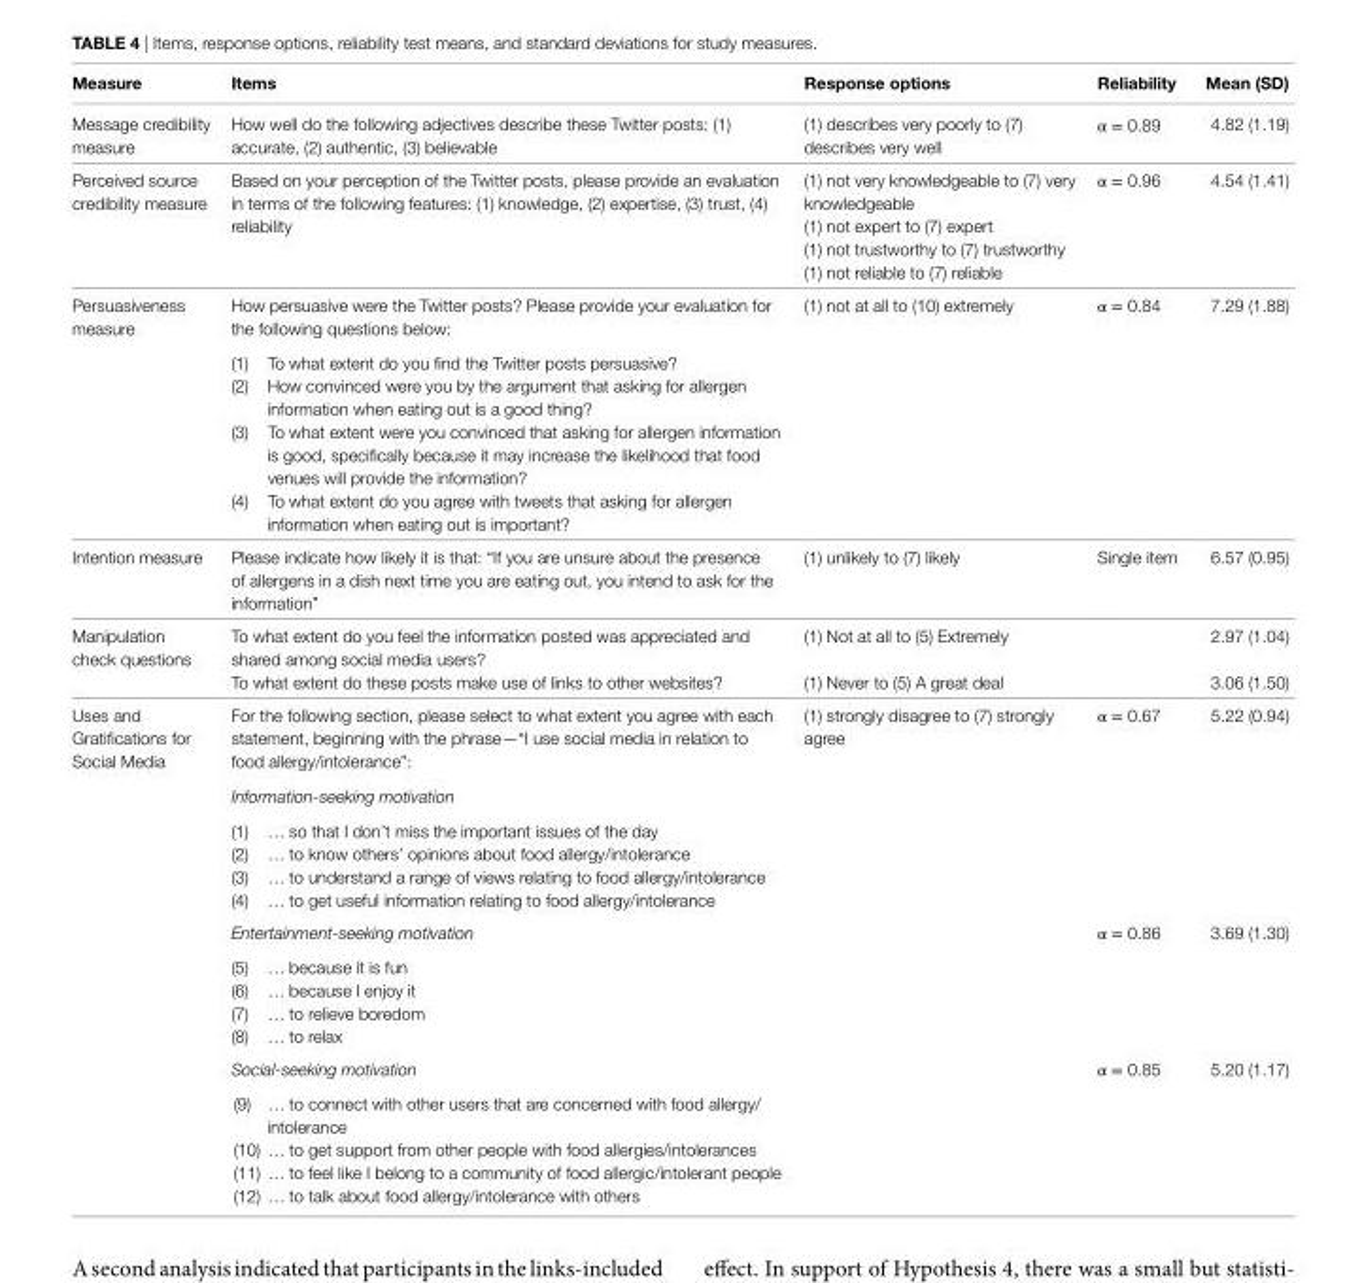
<table><thead><tr><td>Measure</td><td>items</td><td>response options</td><td>reliability</td><td>Mean (sD)</td></tr></thead><tbody><tr><td>Message credibility measure</td><td>How well do the following adjectives describe these Twitter posts: (1) accurate, (2) authentic, (3) believable</td><td>(1) describes very poorly to (7) describes very well</td><td>α = 0.89</td><td>4.82 (1.19)</td></tr><tr><td>Perceived source credibility measure</td><td>Based on your perception of the Twitter posts, please provide an evaluation in terms of the following features: (1) knowledge, (2) expertise, (3) trust, (4) reliability</td><td>(1) not very knowledgeable to (7) very knowledgeable (1) not expert to (7) expert (1) not trustworthy to (7) trustworthy (1) not reliable to (7) reliable</td><td>α = 0.96</td><td>4.54 (1.41)</td></tr><tr><td>Persuasiveness measure</td><td>How persuasive were the Twitter posts? Please provide your evaluation for the following questions below: (1) To what extent do you find the Twitter posts persuasive? (2) How convinced were you by the argument that asking for allergen information when eating out is a good thing? (3) To what extent were you convinced that asking for allergen information is good, specifically because it may increase the likelihood that food venues will provide the information? (4) To what extent do you agree with tweets that asking for allergen information when eating out is important?</td><td>(1) not at all to (10) extremely</td><td>α = 0.84</td><td>7.29 (1.88)</td></tr><tr><td>Intention measure</td><td>Please indicate how likely it is that: “If you are unsure about the presence of allergens in a dish next time you are eating out, you intend to ask for the information”</td><td>(1) unlikely to (7) likely</td><td>Single item</td><td>6.57 (0.95)</td></tr><tr><td>Manipulation check questions</td><td>To what extent do you feel the information posted was appreciated and shared among social media users? To what extent do these posts make use of links to other websites?</td><td>(1) Not at all to (5) Extremely (1) Never to (5) A great deal</td><td></td><td>2.97 (1.04) 3.06 (1.50)</td></tr><tr><td rowspan="3">Uses and Gratifications for Social Media</td><td>For the following section, please select to what extent you agree with each statement, beginning with the phrase—“I use social media in relation to food allergy/intolerance”: Information-seeking motivation (1) … so that I don’t miss the important issues of the day (2) … to know others’ opinions about food allergy/intolerance (3) … to understand a range of views relating to food allergy/intolerance (4) … to get useful information relating to food allergy/intolerance</td><td>(1) strongly disagree to (7) strongly agree</td><td>α = 0.67</td><td>5.22 (0.94)</td></tr><tr><td>Entertainment-seeking motivation (5) … because it is fun (6) … because I enjoy it (7) … to relieve boredom (8) … to relax</td><td></td><td>α = 0.86</td><td>3.69 (1.30)</td></tr><tr><td>Social-seeking motivation (9) … to connect with other users that are concerned with food allergy/ intolerance (10) … to get support from other people with food allergies/intolerances (11) … to feel like I belong to a community of food allergic/intolerant people (12) … to talk about food allergy/intolerance with others</td><td></td><td>α = 0.85</td><td>5.20 (1.17)</td></tr></tbody></table>